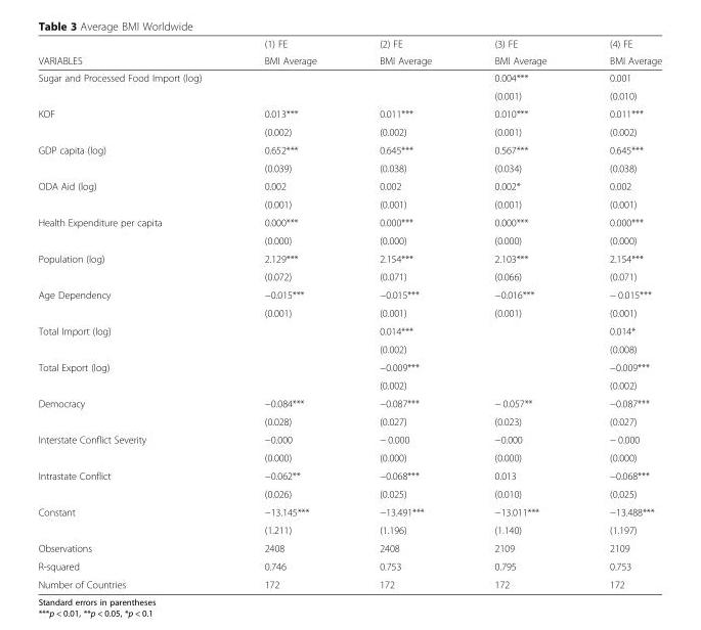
<table><thead><tr><td rowspan="2">VARIABLES</td><td rowspan="2">(1) FE BMI Average</td><td rowspan="2">(2) FE BMI Average</td><td rowspan="2">(3) FE BMI Average</td><td rowspan="2">(4) FE BMI Average</td></tr><tr></tr></thead><tbody><tr><td rowspan="2">Sugar and Processed Food Import (log)</td><td></td><td></td><td>0.004***</td><td>0.001</td></tr><tr><td></td><td></td><td>(0.001)</td><td>(0.010)</td></tr><tr><td rowspan="2">KOF</td><td>0.013***</td><td>0.011***</td><td>0.010***</td><td>0.011***</td></tr><tr><td>(0.002)</td><td>(0.002)</td><td>(0.001)</td><td>(0.002)</td></tr><tr><td rowspan="2">GDP capita (log)</td><td>0.652***</td><td>0.645***</td><td>0.567***</td><td>0.645***</td></tr><tr><td>(0.039)</td><td>(0.038)</td><td>(0.034)</td><td>(0.038)</td></tr><tr><td rowspan="2">ODA Aid (log)</td><td>0.002</td><td>0.002</td><td>0.002*</td><td>0.002</td></tr><tr><td>(0.001)</td><td>(0.001)</td><td>(0.001)</td><td>(0.001)</td></tr><tr><td rowspan="2">Health Expenditure per capita</td><td>0.000***</td><td>0.000***</td><td>0.000***</td><td>0.000***</td></tr><tr><td>(0.000)</td><td>(0.000)</td><td>(0.000)</td><td>(0.000)</td></tr><tr><td rowspan="2">Population (log)</td><td>2.129***</td><td>2.154***</td><td>2.103***</td><td>2.154***</td></tr><tr><td>(0.072)</td><td>(0.071)</td><td>(0.066)</td><td>(0.071)</td></tr><tr><td rowspan="2">Age Dependency</td><td>−0.015***</td><td>−0.015***</td><td>−0.016***</td><td>− 0.015***</td></tr><tr><td>(0.001)</td><td>(0.001)</td><td>(0.001)</td><td>(0.001)</td></tr><tr><td rowspan="2">Total Import (log)</td><td></td><td>0.014***</td><td></td><td>0.014*</td></tr><tr><td></td><td>(0.002)</td><td></td><td>(0.008)</td></tr><tr><td rowspan="2">Total Export (log)</td><td></td><td>−0.009***</td><td></td><td>−0.009***</td></tr><tr><td></td><td>(0.002)</td><td></td><td>(0.002)</td></tr><tr><td rowspan="2">Democracy</td><td>−0.084***</td><td>−0.087***</td><td>− 0.057**</td><td>−0.087***</td></tr><tr><td>(0.028)</td><td>(0.027)</td><td>(0.023)</td><td>(0.027)</td></tr><tr><td rowspan="2">Interstate Conflict Severity</td><td>−0.000</td><td>− 0.000</td><td>−0.000</td><td>− 0.000</td></tr><tr><td>(0.000)</td><td>(0.000)</td><td>(0.000)</td><td>(0.000)</td></tr><tr><td rowspan="2">Intrastate Conflict</td><td>−0.062**</td><td>−0.068***</td><td>0.013</td><td>−0.068***</td></tr><tr><td>(0.026)</td><td>(0.025)</td><td>(0.010)</td><td>(0.025)</td></tr><tr><td rowspan="2">Constant</td><td>−13.145***</td><td>−13.491***</td><td>−13.011***</td><td>−13.488***</td></tr><tr><td>(1.211)</td><td>(1.196)</td><td>(1.140)</td><td>(1.197)</td></tr><tr><td>Observations</td><td>2408</td><td>2408</td><td>2109</td><td>2109</td></tr><tr><td>R-squared</td><td>0.746</td><td>0.753</td><td>0.795</td><td>0.753</td></tr><tr><td>Number of Countries</td><td>172</td><td>172</td><td>172</td><td>172</td></tr></tbody></table>